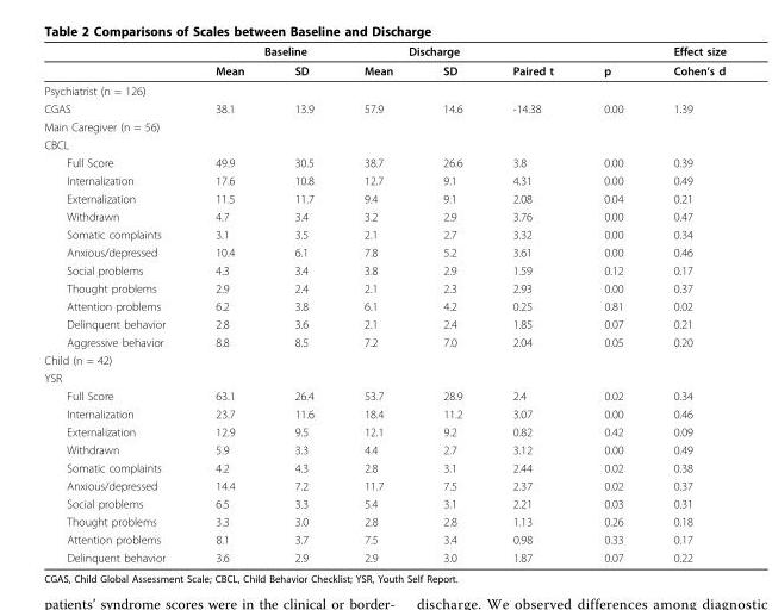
<table><thead><tr><td rowspan="2"></td><td colspan="2">Baseline</td><td colspan="2">Discharge</td><td rowspan="2">Paired t</td><td rowspan="2">p</td><td rowspan="2">Effect size Cohen’s d</td></tr><tr><td>Mean</td><td>SD</td><td>Mean</td><td>SD</td></tr></thead><tbody><tr><td colspan="8">Psychiatrist (n = 126)</td></tr><tr><td>CGAS</td><td>38.1</td><td>13.9</td><td>57.9</td><td>14.6</td><td>-14.38</td><td>0.00</td><td>1.39</td></tr><tr><td colspan="8">Main Caregiver (n = 56)</td></tr><tr><td colspan="8">CBCL</td></tr><tr><td>Full Score</td><td>49.9</td><td>30.5</td><td>38.7</td><td>26.6</td><td>3.8</td><td>0.00</td><td>0.39</td></tr><tr><td>Internalization</td><td>17.6</td><td>10.8</td><td>12.7</td><td>9.1</td><td>4.31</td><td>0.00</td><td>0.49</td></tr><tr><td>Externalization</td><td>11.5</td><td>11.7</td><td>9.4</td><td>9.1</td><td>2.08</td><td>0.04</td><td>0.21</td></tr><tr><td>Withdrawn</td><td>4.7</td><td>3.4</td><td>3.2</td><td>2.9</td><td>3.76</td><td>0.00</td><td>0.47</td></tr><tr><td>Somatic complaints</td><td>3.1</td><td>3.5</td><td>2.1</td><td>2.7</td><td>3.32</td><td>0.00</td><td>0.34</td></tr><tr><td>Anxious/depressed</td><td>10.4</td><td>6.1</td><td>7.8</td><td>5.2</td><td>3.61</td><td>0.00</td><td>0.46</td></tr><tr><td>Social problems</td><td>4.3</td><td>3.4</td><td>3.8</td><td>2.9</td><td>1.59</td><td>0.12</td><td>0.17</td></tr><tr><td>Thought problems</td><td>2.9</td><td>2.4</td><td>2.1</td><td>2.3</td><td>2.93</td><td>0.00</td><td>0.37</td></tr><tr><td>Attention problems</td><td>6.2</td><td>3.8</td><td>6.1</td><td>4.2</td><td>0.25</td><td>0.81</td><td>0.02</td></tr><tr><td>Delinquent behavior</td><td>2.8</td><td>3.6</td><td>2.1</td><td>2.4</td><td>1.85</td><td>0.07</td><td>0.21</td></tr><tr><td>Aggressive behavior</td><td>8.8</td><td>8.5</td><td>7.2</td><td>7.0</td><td>2.04</td><td>0.05</td><td>0.20</td></tr><tr><td colspan="8">Child (n = 42)</td></tr><tr><td colspan="8">YSR</td></tr><tr><td>Full Score</td><td>63.1</td><td>26.4</td><td>53.7</td><td>28.9</td><td>2.4</td><td>0.02</td><td>0.34</td></tr><tr><td>Internalization</td><td>23.7</td><td>11.6</td><td>18.4</td><td>11.2</td><td>3.07</td><td>0.00</td><td>0.46</td></tr><tr><td>Externalization</td><td>12.9</td><td>9.5</td><td>12.1</td><td>9.2</td><td>0.82</td><td>0.42</td><td>0.09</td></tr><tr><td>Withdrawn</td><td>5.9</td><td>3.3</td><td>4.4</td><td>2.7</td><td>3.12</td><td>0.00</td><td>0.49</td></tr><tr><td>Somatic complaints</td><td>4.2</td><td>4.3</td><td>2.8</td><td>3.1</td><td>2.44</td><td>0.02</td><td>0.38</td></tr><tr><td>Anxious/depressed</td><td>14.4</td><td>7.2</td><td>11.7</td><td>7.5</td><td>2.37</td><td>0.02</td><td>0.37</td></tr><tr><td>Social problems</td><td>6.5</td><td>3.3</td><td>5.4</td><td>3.1</td><td>2.21</td><td>0.03</td><td>0.31</td></tr><tr><td>Thought problems</td><td>3.3</td><td>3.0</td><td>2.8</td><td>2.8</td><td>1.13</td><td>0.26</td><td>0.18</td></tr><tr><td>Attention problems</td><td>8.1</td><td>3.7</td><td>7.5</td><td>3.4</td><td>0.98</td><td>0.33</td><td>0.17</td></tr><tr><td>Delinquent behavior</td><td>3.6</td><td>2.9</td><td>2.9</td><td>3.0</td><td>1.87</td><td>0.07</td><td>0.22</td></tr></tbody></table>